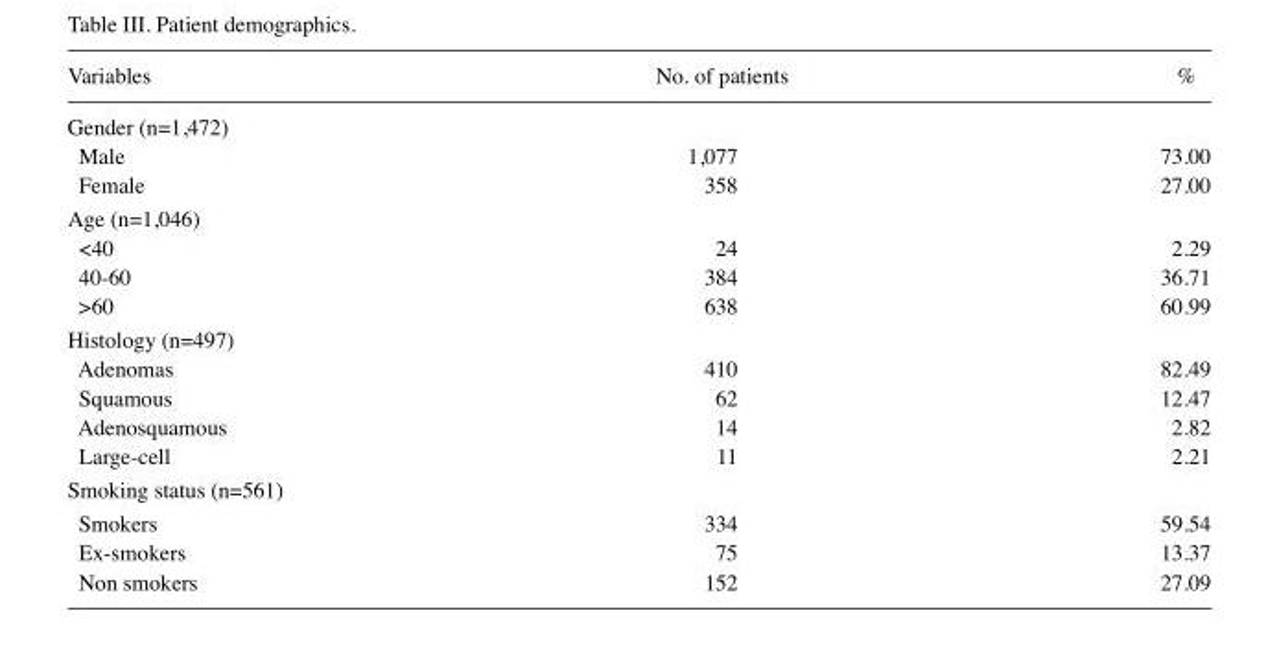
<table><thead><tr><td>Variables</td><td>No. of patients</td><td>%</td></tr></thead><tbody><tr><td colspan="3">Gender (n=1,472)</td></tr><tr><td>Male</td><td>1,077</td><td>73.00</td></tr><tr><td>Female</td><td>358</td><td>27.00</td></tr><tr><td colspan="3">Age (n=1,046)</td></tr><tr><td>&lt;40</td><td>24</td><td>2.29</td></tr><tr><td>40-60</td><td>384</td><td>36.71</td></tr><tr><td>&gt;60</td><td>638</td><td>60.99</td></tr><tr><td colspan="3">Histology (n=497)</td></tr><tr><td>Adenomas</td><td>410</td><td>82.49</td></tr><tr><td>Squamous</td><td>62</td><td>12.47</td></tr><tr><td>Adenosquamous</td><td>14</td><td>2.82</td></tr><tr><td>Large-cell</td><td>11</td><td>2.21</td></tr><tr><td colspan="3">Smoking status (n=561)</td></tr><tr><td>Smokers</td><td>334</td><td>59.54</td></tr><tr><td>Ex-smokers</td><td>75</td><td>13.37</td></tr><tr><td>Non smokers</td><td>152</td><td>27.09</td></tr></tbody></table>